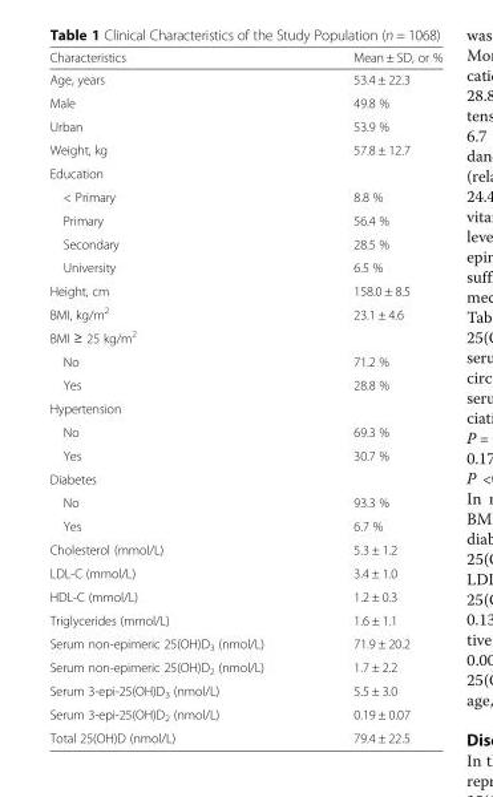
<table><thead><tr><td>Characteristics</td><td>Mean ± SD, or %</td></tr></thead><tbody><tr><td>Age, years</td><td>53.4 ± 22.3</td></tr><tr><td>Male</td><td>49.8 %</td></tr><tr><td>Urban</td><td>53.9 %</td></tr><tr><td>Weight, kg</td><td>57.8 ± 12.7</td></tr><tr><td colspan="2">Education</td></tr><tr><td>&lt; Primary</td><td>8.8 %</td></tr><tr><td>Primary</td><td>56.4 %</td></tr><tr><td>Secondary</td><td>28.5 %</td></tr><tr><td>University</td><td>6.5 %</td></tr><tr><td>Height, cm</td><td>158.0 ± 8.5</td></tr><tr><td>BMI, kg/m<sup>2</sup></td><td>23.1 ± 4.6</td></tr><tr><td colspan="2">BMI ≥ 25 kg/m<sup>2</sup></td></tr><tr><td>No</td><td>71.2 %</td></tr><tr><td>Yes</td><td>28.8 %</td></tr><tr><td colspan="2">Hypertension</td></tr><tr><td>No</td><td>69.3 %</td></tr><tr><td>Yes</td><td>30.7 %</td></tr><tr><td colspan="2">Diabetes</td></tr><tr><td>No</td><td>93.3 %</td></tr><tr><td>Yes</td><td>6.7 %</td></tr><tr><td>Cholesterol (mmol/L)</td><td>5.3 ± 1.2</td></tr><tr><td>LDL-C (mmol/L)</td><td>3.4 ± 1.0</td></tr><tr><td>HDL-C (mmol/L)</td><td>1.2 ± 0.3</td></tr><tr><td>Triglycerides (mmol/L)</td><td>1.6 ± 1.1</td></tr><tr><td>Serum non-epimeric 25(OH)D<sub>3</sub> (nmol/L)</td><td>71.9 ± 20.2</td></tr><tr><td>Serum non-epimeric 25(OH)D<sub>2</sub> (nmol/L)</td><td>1.7 ± 2.2</td></tr><tr><td>Serum 3-epi-25(OH)D<sub>3</sub> (nmol/L)</td><td>5.5 ± 3.0</td></tr><tr><td>Serum 3-epi-25(OH)D<sub>2</sub> (nmol/L)</td><td>0.19 ± 0.07</td></tr><tr><td>Total 25(OH)D (nmol/L)</td><td>79.4 ± 22.5</td></tr></tbody></table>